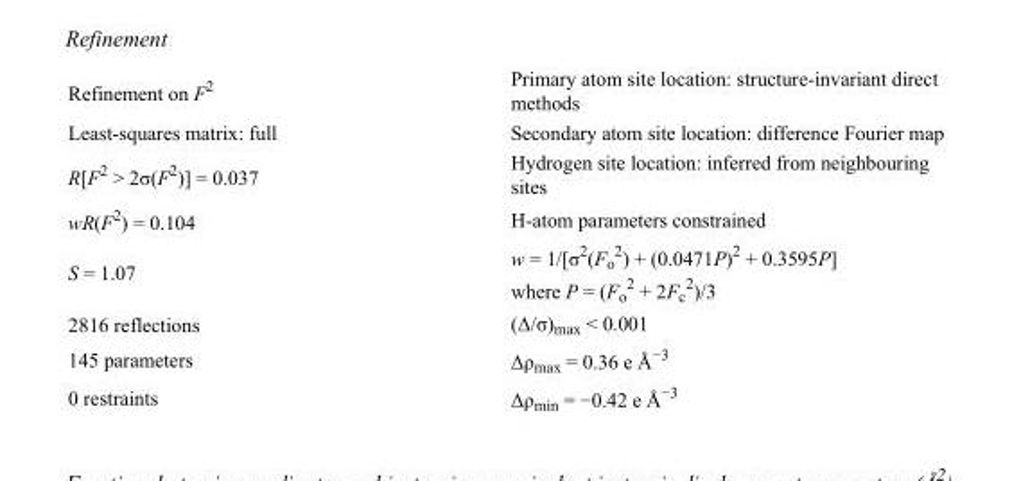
<table><tbody><tr><td>Refinement on F<sup>2</sup></td><td>Primary atom site location: structure-invariant direct methods</td></tr><tr><td>Least-squares matrix: full</td><td>Secondary atom site location: difference Fourier map</td></tr><tr><td>R[F<sup>2</sup> &gt; 2σ(F<sup>2</sup>)] = 0.037</td><td>Hydrogen site location: inferred from neighbouring sites</td></tr><tr><td>wR(F<sup>2</sup>) = 0.104</td><td>H-atom parameters constrained</td></tr><tr><td>S = 1.07</td><td>w = 1/[σ<sup>2</sup>(F<sub>o</sub> <sup>2</sup>) + (0.0471P)<sup>2</sup> + 0.3595P] where P = (F<sub>o</sub> <sup>2</sup> + 2F<sub>c</sub> <sup>2</sup>)/3</td></tr><tr><td>2816 reflections</td><td>(Δ/σ)<sub>max</sub> &lt; 0.001</td></tr><tr><td>145 parameters</td><td>Δρ<sub>max</sub> = 0.36 e Å<sup>−3</sup></td></tr><tr><td>0 restraints</td><td>Δρ<sub>min</sub> = −0.42 e Å<sup>−3</sup></td></tr></tbody></table>